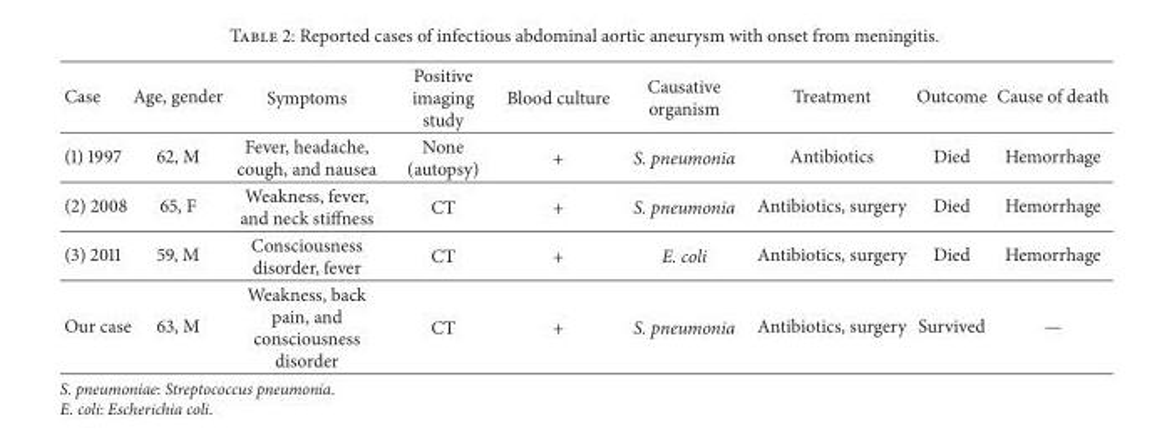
<table><thead><tr><td>Case</td><td>Age, gender</td><td>Symptoms</td><td>Positive imaging study</td><td>Blood culture</td><td>Causative organism</td><td>Treatment</td><td>Outcome</td><td>Cause of death</td></tr></thead><tbody><tr><td>(1) 1997</td><td>62, M</td><td>Fever, headache, cough, and nausea</td><td>None (autopsy)</td><td>+</td><td>S. pneumonia</td><td>Antibiotics</td><td>Died</td><td>Hemorrhage</td></tr><tr><td>(2) 2008</td><td>65, F</td><td>Weakness, fever, and neck stiffness</td><td>CT</td><td>+</td><td>S. pneumonia</td><td>Antibiotics, surgery</td><td>Died</td><td>Hemorrhage</td></tr><tr><td>(3) 2011</td><td>59, M</td><td>Consciousness disorder, fever</td><td>CT</td><td>+</td><td>E. coli</td><td>Antibiotics, surgery</td><td>Died</td><td>Hemorrhage</td></tr><tr><td>Our case</td><td>63, M</td><td>Weakness, back pain, and consciousness disorder</td><td>CT</td><td>+</td><td>S. pneumonia</td><td>Antibiotics, surgery</td><td>Survived</td><td>—</td></tr></tbody></table>